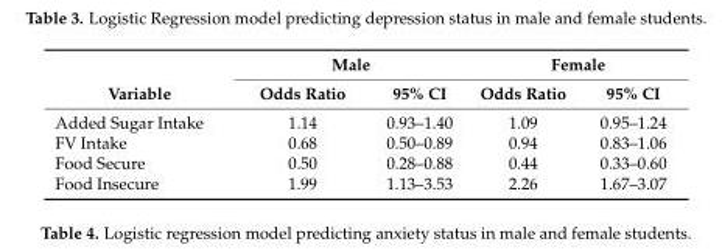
<table><thead><tr><td rowspan="2">Variable</td><td colspan="2">Male</td><td colspan="2">Female</td></tr><tr><td>Odds Ratio</td><td>95% CI</td><td>Odds Ratio</td><td>95% CI</td></tr></thead><tbody><tr><td>Added Sugar Intake</td><td>1.14</td><td>0.93–1.40</td><td>1.09</td><td>0.95–1.24</td></tr><tr><td>FV Intake</td><td>0.68</td><td>0.50–0.89</td><td>0.94</td><td>0.83–1.06</td></tr><tr><td>Food Secure</td><td>0.50</td><td>0.28–0.88</td><td>0.44</td><td>0.33–0.60</td></tr><tr><td>Food Insecure</td><td>1.99</td><td>1.13–3.53</td><td>2.26</td><td>1.67–3.07</td></tr></tbody></table>